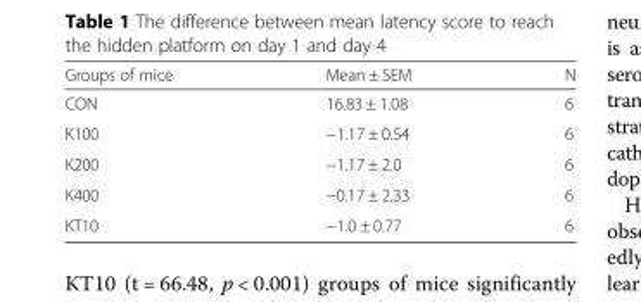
<table><thead><tr><td>Groups of mice</td><td>Mean ± SEM</td><td>N</td></tr></thead><tbody><tr><td>CON</td><td>16.83 ± 1.08</td><td>6</td></tr><tr><td>K100</td><td>−1.17 ± 0.54</td><td>6</td></tr><tr><td>K200</td><td>−1.17 ± 2.0</td><td>6</td></tr><tr><td>K400</td><td>−0.17 ± 2.33</td><td>6</td></tr><tr><td>KT10</td><td>−1.0 ± 0.77</td><td>6</td></tr></tbody></table>